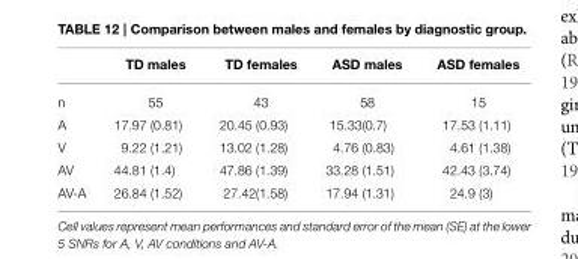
<table><thead><tr><td></td><td>TD males</td><td>TD females</td><td>ASD males</td><td>ASD females</td></tr></thead><tbody><tr><td>n</td><td>55</td><td>43</td><td>58</td><td>15</td></tr><tr><td>A</td><td>17.97 (0.81)</td><td>20.45 (0.93)</td><td>15.33(0.7)</td><td>17.53 (1.11)</td></tr><tr><td>V</td><td>9.22 (1.21)</td><td>13.02 (1.28)</td><td>4.76 (0.83)</td><td>4.61 (1.38)</td></tr><tr><td>AV</td><td>44.81 (1.4)</td><td>47.86 (1.39)</td><td>33.28 (1.51)</td><td>42.43 (3.74)</td></tr><tr><td>AV-A</td><td>26.84 (1.52)</td><td>27.42(1.58)</td><td>17.94 (1.31)</td><td>24.9 (3)</td></tr></tbody></table>